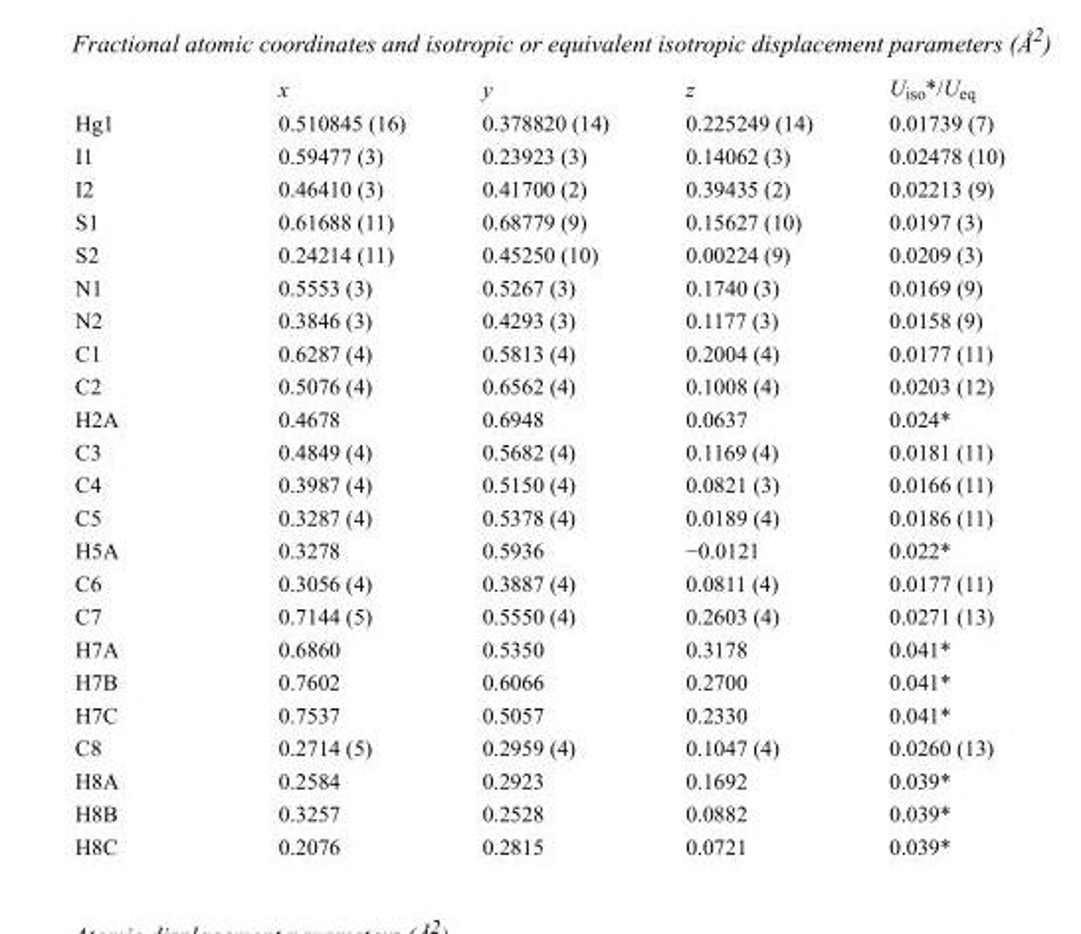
<table><thead><tr><td></td><td>x</td><td>y</td><td>z</td><td>U<sub>iso</sub>*/U<sub>eq</sub></td></tr></thead><tbody><tr><td>Hg1</td><td>0.510845 (16)</td><td>0.378820 (14)</td><td>0.225249 (14)</td><td>0.01739 (7)</td></tr><tr><td>I1</td><td>0.59477 (3)</td><td>0.23923 (3)</td><td>0.14062 (3)</td><td>0.02478 (10)</td></tr><tr><td>I2</td><td>0.46410 (3)</td><td>0.41700 (2)</td><td>0.39435 (2)</td><td>0.02213 (9)</td></tr><tr><td>S1</td><td>0.61688 (11)</td><td>0.68779 (9)</td><td>0.15627 (10)</td><td>0.0197 (3)</td></tr><tr><td>S2</td><td>0.24214 (11)</td><td>0.45250 (10)</td><td>0.00224 (9)</td><td>0.0209 (3)</td></tr><tr><td>N1</td><td>0.5553 (3)</td><td>0.5267 (3)</td><td>0.1740 (3)</td><td>0.0169 (9)</td></tr><tr><td>N2</td><td>0.3846 (3)</td><td>0.4293 (3)</td><td>0.1177 (3)</td><td>0.0158 (9)</td></tr><tr><td>C1</td><td>0.6287 (4)</td><td>0.5813 (4)</td><td>0.2004 (4)</td><td>0.0177 (11)</td></tr><tr><td>C2</td><td>0.5076 (4)</td><td>0.6562 (4)</td><td>0.1008 (4)</td><td>0.0203 (12)</td></tr><tr><td>H2A</td><td>0.4678</td><td>0.6948</td><td>0.0637</td><td>0.024*</td></tr><tr><td>C3</td><td>0.4849 (4)</td><td>0.5682 (4)</td><td>0.1169 (4)</td><td>0.0181 (11)</td></tr><tr><td>C4</td><td>0.3987 (4)</td><td>0.5150 (4)</td><td>0.0821 (3)</td><td>0.0166 (11)</td></tr><tr><td>C5</td><td>0.3287 (4)</td><td>0.5378 (4)</td><td>0.0189 (4)</td><td>0.0186 (11)</td></tr><tr><td>H5A</td><td>0.3278</td><td>0.5936</td><td>−0.0121</td><td>0.022*</td></tr><tr><td>C6</td><td>0.3056 (4)</td><td>0.3887 (4)</td><td>0.0811 (4)</td><td>0.0177 (11)</td></tr><tr><td>C7</td><td>0.7144 (5)</td><td>0.5550 (4)</td><td>0.2603 (4)</td><td>0.0271 (13)</td></tr><tr><td>H7A</td><td>0.6860</td><td>0.5350</td><td>0.3178</td><td>0.041*</td></tr><tr><td>H7B</td><td>0.7602</td><td>0.6066</td><td>0.2700</td><td>0.041*</td></tr><tr><td>H7C</td><td>0.7537</td><td>0.5057</td><td>0.2330</td><td>0.041*</td></tr><tr><td>C8</td><td>0.2714 (5)</td><td>0.2959 (4)</td><td>0.1047 (4)</td><td>0.0260 (13)</td></tr><tr><td>H8A</td><td>0.2584</td><td>0.2923</td><td>0.1692</td><td>0.039*</td></tr><tr><td>H8B</td><td>0.3257</td><td>0.2528</td><td>0.0882</td><td>0.039*</td></tr><tr><td>H8C</td><td>0.2076</td><td>0.2815</td><td>0.0721</td><td>0.039*</td></tr></tbody></table>